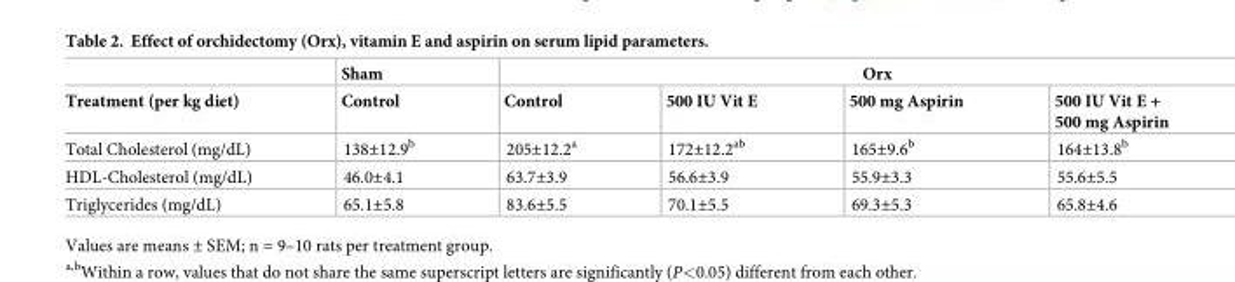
<table><thead><tr><td rowspan="2">Treatment (per kg diet)</td><td rowspan="2">Sham Control</td><td colspan="4">Orx</td></tr><tr><td>Control</td><td>500 IU Vit E</td><td>500 mg Aspirin</td><td>500 IU Vit E + 500 mg Aspirin</td></tr></thead><tbody><tr><td>Total Cholesterol (mg/dL)</td><td>138±12.9<sup>b</sup></td><td>205±12.2<sup>a</sup></td><td>172±12.2<sup>ab</sup></td><td>165±9.6<sup>b</sup></td><td>164±13.8<sup>b</sup></td></tr><tr><td>HDL-Cholesterol (mg/dL)</td><td>46.0±4.1</td><td>63.7±3.9</td><td>56.6±3.9</td><td>55.9±3.3</td><td>55.6±5.5</td></tr><tr><td>Triglycerides (mg/dL)</td><td>65.1±5.8</td><td>83.6±5.5</td><td>70.1±5.5</td><td>69.3±5.3</td><td>65.8±4.6</td></tr></tbody></table>